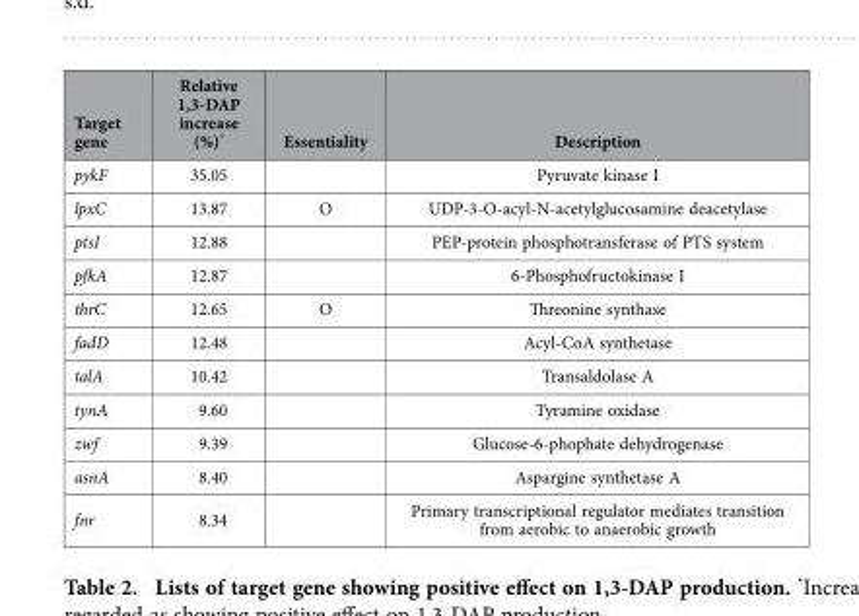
<table><thead><tr><td>Target gene</td><td>Relative 1,3-DAP increase (%)*</td><td>Essentiality</td><td>Description</td></tr></thead><tbody><tr><td>pykF</td><td>35.05</td><td></td><td>Pyruvate kinase I</td></tr><tr><td>lpxC</td><td>13.87</td><td>O</td><td>UDP-3-O-acyl-N-acetylglucosamine deacetylase</td></tr><tr><td>ptsI</td><td>12.88</td><td></td><td>PEP-protein phosphotransferase of PTS system</td></tr><tr><td>pfkA</td><td>12.87</td><td></td><td>6-Phosphofructokinase I</td></tr><tr><td>thrC</td><td>12.65</td><td>O</td><td>Threonine synthase</td></tr><tr><td>fadD</td><td>12.48</td><td></td><td>Acyl-CoA synthetase</td></tr><tr><td>talA</td><td>10.42</td><td></td><td>Transaldolase A</td></tr><tr><td>tynA</td><td>9.60</td><td></td><td>Tyramine oxidase</td></tr><tr><td>zwf</td><td>9.39</td><td></td><td>Glucose-6-phophate dehydrogenase</td></tr><tr><td>asnA</td><td>8.40</td><td></td><td>Aspargine synthetase A</td></tr><tr><td>fnr</td><td>8.34</td><td></td><td>Primary transcriptional regulator mediates transition from aerobic to anaerobic growth</td></tr></tbody></table>